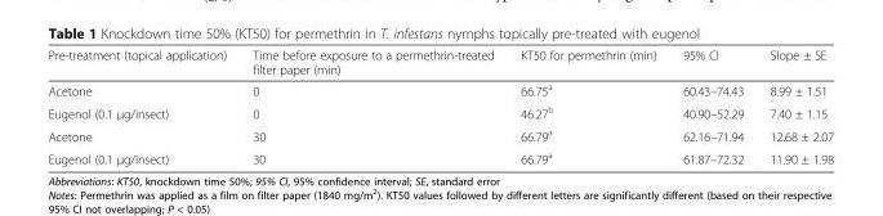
<table><thead><tr><td>Pre-treatment (topical application)</td><td>Time before exposure to a permethrin-treated filter paper (min)</td><td>KT50 for permethrin (min)</td><td>95% CI</td><td>Slope ± SE</td></tr></thead><tbody><tr><td>Acetone</td><td>0</td><td>66.75<sup>a</sup></td><td>60.43–74.43</td><td>8.99 ± 1.51</td></tr><tr><td>Eugenol (0.1 μg/insect)</td><td>0</td><td>46.27<sup>b</sup></td><td>40.90–52.29</td><td>7.40 ± 1.15</td></tr><tr><td>Acetone</td><td>30</td><td>66.79<sup>a</sup></td><td>62.16–71.94</td><td>12.68 ± 2.07</td></tr><tr><td>Eugenol (0.1 μg/insect)</td><td>30</td><td>66.79<sup>a</sup></td><td>61.87–72.32</td><td>11.90 ± 1.98</td></tr></tbody></table>